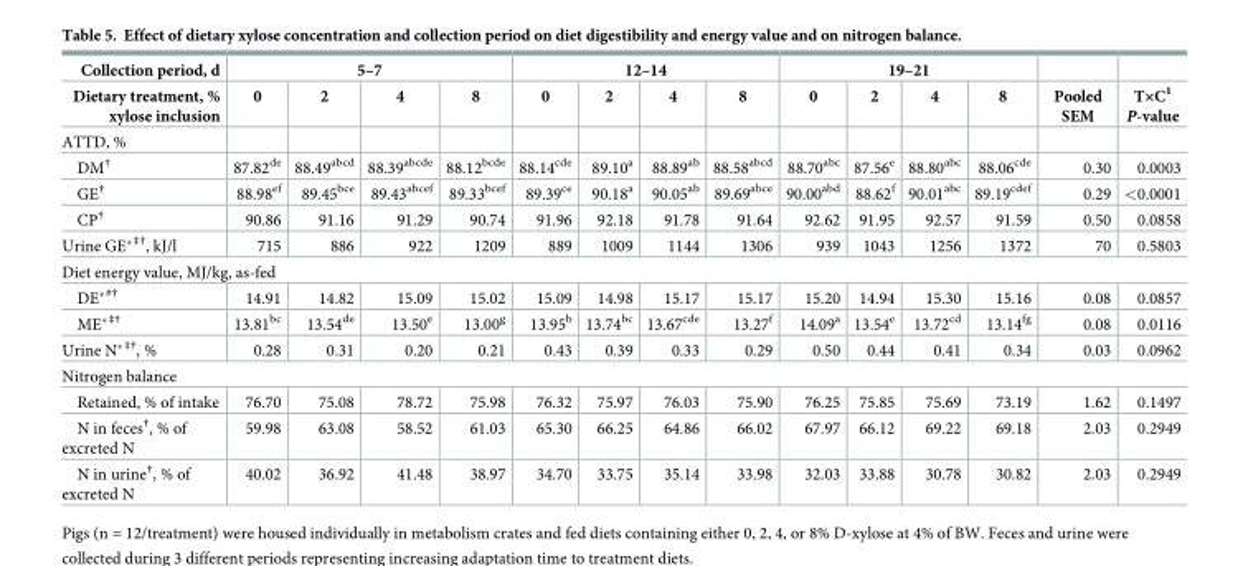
<table><thead><tr><td rowspan="2">Collection period, d Dietary treatment, % xylose inclusion</td><td colspan="4">5–7</td><td colspan="4">12–14</td><td colspan="4">19–21</td><td rowspan="2">Pooled SEM</td><td rowspan="2">T×C<sup>1</sup> P-value</td></tr><tr><td>0</td><td>2</td><td>4</td><td>8</td><td>0</td><td>2</td><td>4</td><td>8</td><td>0</td><td>2</td><td>4</td><td>8</td></tr></thead><tbody><tr><td colspan="15">ATTD, %</td></tr><tr><td>DM<sup>†</sup></td><td>87.82<sup>de</sup></td><td>88.49<sup>abcd</sup></td><td>88.39<sup>abcde</sup></td><td>88.12<sup>bcde</sup></td><td>88.14<sup>cde</sup></td><td>89.10<sup>a</sup></td><td>88.89<sup>ab</sup></td><td>88.58<sup>abcd</sup></td><td>88.70<sup>abc</sup></td><td>87.56<sup>e</sup></td><td>88.80<sup>abc</sup></td><td>88.06<sup>cde</sup></td><td>0.30</td><td>0.0003</td></tr><tr><td>GE<sup>†</sup></td><td>88.98<sup>ef</sup></td><td>89.45<sup>bce</sup></td><td>89.43<sup>abcef</sup></td><td>89.33<sup>bcef</sup></td><td>89.39<sup>ce</sup></td><td>90.18<sup>a</sup></td><td>90.05<sup>ab</sup></td><td>89.69<sup>abce</sup></td><td>90.00<sup>abd</sup></td><td>88.62<sup>f</sup></td><td>90.01<sup>abc</sup></td><td>89.19<sup>cdef</sup></td><td>0.29</td><td>&lt;0.0001</td></tr><tr><td>CP<sup>†</sup></td><td>90.86</td><td>91.16</td><td>91.29</td><td>90.74</td><td>91.96</td><td>92.18</td><td>91.78</td><td>91.64</td><td>92.62</td><td>91.95</td><td>92.57</td><td>91.59</td><td>0.50</td><td>0.0858</td></tr><tr><td>Urine GE*<sup>‡†</sup>, kJ/l</td><td>715</td><td>886</td><td>922</td><td>1209</td><td>889</td><td>1009</td><td>1144</td><td>1306</td><td>939</td><td>1043</td><td>1256</td><td>1372</td><td>70</td><td>0.5803</td></tr><tr><td colspan="15">Diet energy value, MJ/kg, as-fed</td></tr><tr><td>DE*<sup>#†</sup></td><td>14.91</td><td>14.82</td><td>15.09</td><td>15.02</td><td>15.09</td><td>14.98</td><td>15.17</td><td>15.17</td><td>15.20</td><td>14.94</td><td>15.30</td><td>15.16</td><td>0.08</td><td>0.0857</td></tr><tr><td>ME*<sup>‡†</sup></td><td>13.81<sup>bc</sup></td><td>13.54<sup>de</sup></td><td>13.50<sup>e</sup></td><td>13.00<sup>g</sup></td><td>13.95<sup>b</sup></td><td>13.74<sup>bc</sup></td><td>13.67<sup>cde</sup></td><td>13.27<sup>f</sup></td><td>14.09<sup>a</sup></td><td>13.54<sup>e</sup></td><td>13.72<sup>cd</sup></td><td>13.14<sup>fg</sup></td><td>0.08</td><td>0.0116</td></tr><tr><td>Urine N*<sup>‡†</sup>, %</td><td>0.28</td><td>0.31</td><td>0.20</td><td>0.21</td><td>0.43</td><td>0.39</td><td>0.33</td><td>0.29</td><td>0.50</td><td>0.44</td><td>0.41</td><td>0.34</td><td>0.03</td><td>0.0962</td></tr><tr><td colspan="15">Nitrogen balance</td></tr><tr><td>Retained, % of intake</td><td>76.70</td><td>75.08</td><td>78.72</td><td>75.98</td><td>76.32</td><td>75.97</td><td>76.03</td><td>75.90</td><td>76.25</td><td>75.85</td><td>75.69</td><td>73.19</td><td>1.62</td><td>0.1497</td></tr><tr><td>N in feces<sup>†</sup>, % of excreted N</td><td>59.98</td><td>63.08</td><td>58.52</td><td>61.03</td><td>65.30</td><td>66.25</td><td>64.86</td><td>66.02</td><td>67.97</td><td>66.12</td><td>69.22</td><td>69.18</td><td>2.03</td><td>0.2949</td></tr><tr><td>N in urine<sup>†</sup>, % of excreted N</td><td>40.02</td><td>36.92</td><td>41.48</td><td>38.97</td><td>34.70</td><td>33.75</td><td>35.14</td><td>33.98</td><td>32.03</td><td>33.88</td><td>30.78</td><td>30.82</td><td>2.03</td><td>0.2949</td></tr></tbody></table>